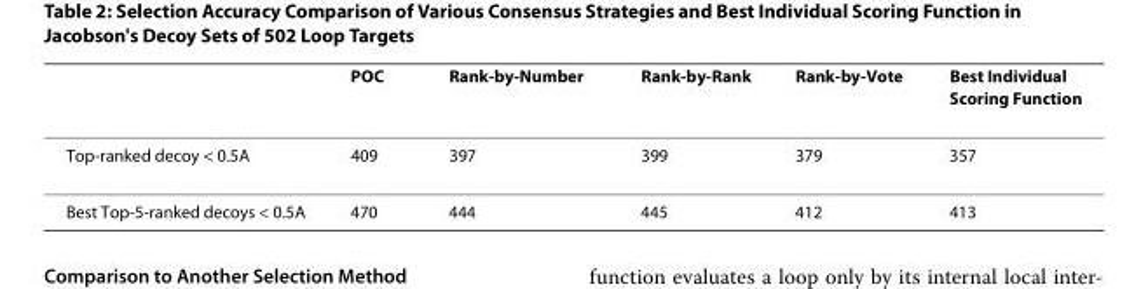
<table><thead><tr><td></td><td>POC</td><td>Rank-by-Number</td><td>Rank-by-Rank</td><td>Rank-by-Vote</td><td>Best Individual Scoring Function</td></tr></thead><tbody><tr><td>Top-ranked decoy &lt; 0.5A</td><td>409</td><td>397</td><td>399</td><td>379</td><td>357</td></tr><tr><td>Best Top-5-ranked decoys &lt; 0.5A</td><td>470</td><td>444</td><td>445</td><td>412</td><td>413</td></tr></tbody></table>